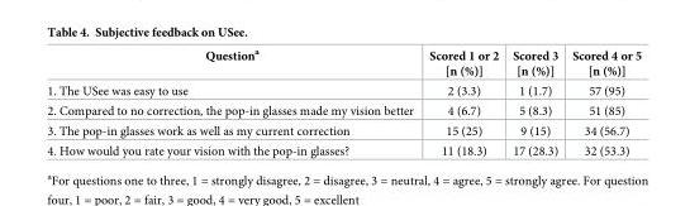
<table><thead><tr><td>Question<sup>a</sup></td><td>Scored 1 or 2 [n (%)]</td><td>Scored 3 [n (%)]</td><td>Scored 4 or 5 [n (%)]</td></tr></thead><tbody><tr><td>1. The USee was easy to use</td><td>2 (3.3)</td><td>1 (1.7)</td><td>57 (95)</td></tr><tr><td>2. Compared to no correction, the pop-in glasses made my vision better</td><td>4 (6.7)</td><td>5 (8.3)</td><td>51 (85)</td></tr><tr><td>3. The pop-in glasses work as well as my current correction</td><td>15 (25)</td><td>9 (15)</td><td>34 (56.7)</td></tr><tr><td>4. How would you rate your vision with the pop-in glasses?</td><td>11 (18.3)</td><td>17 (28.3)</td><td>32 (53.3)</td></tr></tbody></table>